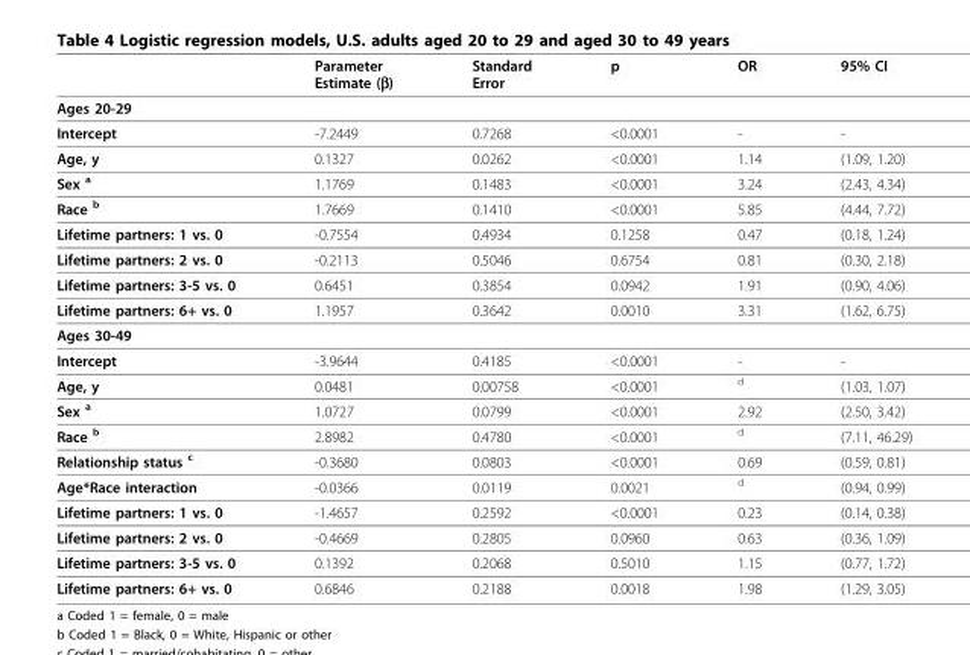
<table><thead><tr><td></td><td>Parameter Estimate (β)</td><td>Standard Error</td><td>p</td><td>OR</td><td>95% CI</td></tr></thead><tbody><tr><td colspan="6">Ages 20-29</td></tr><tr><td>Intercept</td><td>-7.2449</td><td>0.7268</td><td>&lt;0.0001</td><td>-</td><td>-</td></tr><tr><td>Age, y</td><td>0.1327</td><td>0.0262</td><td>&lt;0.0001</td><td>1.14</td><td>(1.09, 1.20)</td></tr><tr><td>Sex <sup>a</sup></td><td>1.1769</td><td>0.1483</td><td>&lt;0.0001</td><td>3.24</td><td>(2.43, 4.34)</td></tr><tr><td>Race <sup>b</sup></td><td>1.7669</td><td>0.1410</td><td>&lt;0.0001</td><td>5.85</td><td>(4.44, 7.72)</td></tr><tr><td>Lifetime partners: 1 vs. 0</td><td>-0.7554</td><td>0.4934</td><td>0.1258</td><td>0.47</td><td>(0.18, 1.24)</td></tr><tr><td>Lifetime partners: 2 vs. 0</td><td>-0.2113</td><td>0.5046</td><td>0.6754</td><td>0.81</td><td>(0.30, 2.18)</td></tr><tr><td>Lifetime partners: 3-5 vs. 0</td><td>0.6451</td><td>0.3854</td><td>0.0942</td><td>1.91</td><td>(0.90, 4.06)</td></tr><tr><td>Lifetime partners: 6+ vs. 0</td><td>1.1957</td><td>0.3642</td><td>0.0010</td><td>3.31</td><td>(1.62, 6.75)</td></tr><tr><td colspan="6">Ages 30-49</td></tr><tr><td>Intercept</td><td>-3.9644</td><td>0.4185</td><td>&lt;0.0001</td><td>-</td><td>-</td></tr><tr><td>Age, y</td><td>0.0481</td><td>0.00758</td><td>&lt;0.0001</td><td><sup>d</sup></td><td>(1.03, 1.07)</td></tr><tr><td>Sex <sup>a</sup></td><td>1.0727</td><td>0.0799</td><td>&lt;0.0001</td><td>2.92</td><td>(2.50, 3.42)</td></tr><tr><td>Race <sup>b</sup></td><td>2.8982</td><td>0.4780</td><td>&lt;0.0001</td><td><sup>d</sup></td><td>(7.11, 46.29)</td></tr><tr><td>Relationship status <sup>c</sup></td><td>-0.3680</td><td>0.0803</td><td>&lt;0.0001</td><td>0.69</td><td>(0.59, 0.81)</td></tr><tr><td>Age*Race interaction</td><td>-0.0366</td><td>0.0119</td><td>0.0021</td><td><sup>d</sup></td><td>(0.94, 0.99)</td></tr><tr><td>Lifetime partners: 1 vs. 0</td><td>-1.4657</td><td>0.2592</td><td>&lt;0.0001</td><td>0.23</td><td>(0.14, 0.38)</td></tr><tr><td>Lifetime partners: 2 vs. 0</td><td>-0.4669</td><td>0.2805</td><td>0.0960</td><td>0.63</td><td>(0.36, 1.09)</td></tr><tr><td>Lifetime partners: 3-5 vs. 0</td><td>0.1392</td><td>0.2068</td><td>0.5010</td><td>1.15</td><td>(0.77, 1.72)</td></tr><tr><td>Lifetime partners: 6+ vs. 0</td><td>0.6846</td><td>0.2188</td><td>0.0018</td><td>1.98</td><td>(1.29, 3.05)</td></tr></tbody></table>